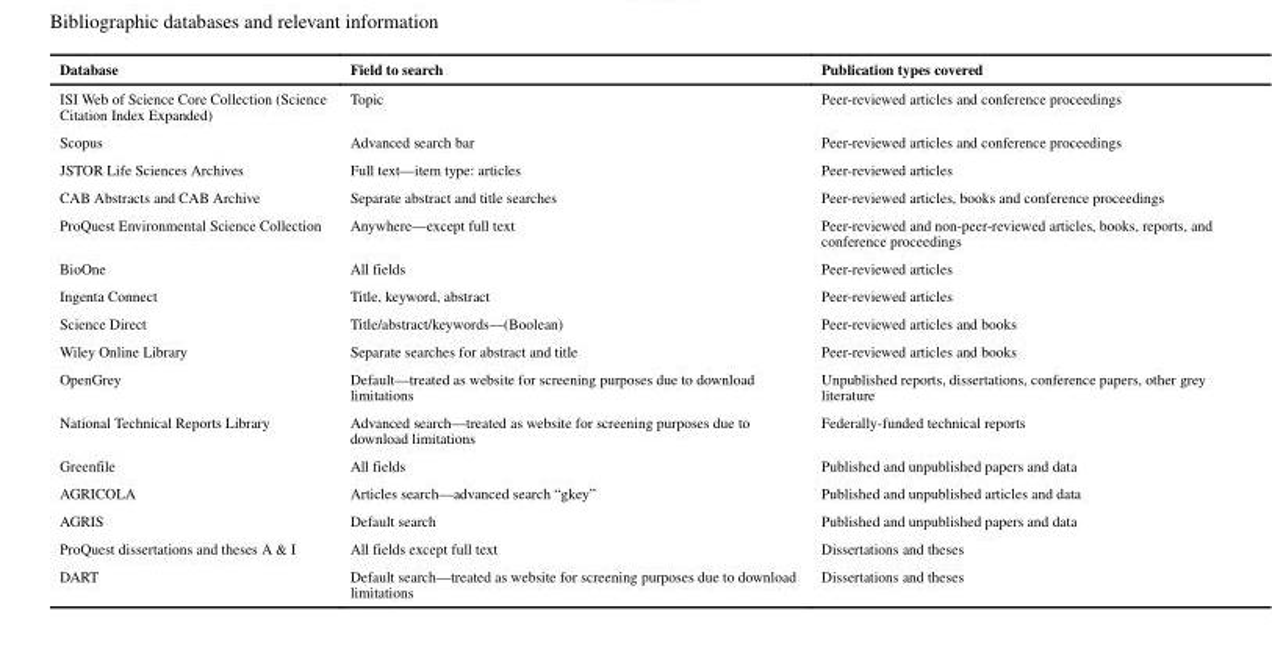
<table><thead><tr><td>Database</td><td>Field to search</td><td>Publication types covered</td></tr></thead><tbody><tr><td>ISI Web of Science Core Collection (Science Citation Index Expanded)</td><td>Topic</td><td>Peer-reviewed articles and conference proceedings</td></tr><tr><td>Scopus</td><td>Advanced search bar</td><td>Peer-reviewed articles and conference proceedings</td></tr><tr><td>JSTOR Life Sciences Archives</td><td>Full text—item type: articles</td><td>Peer-reviewed articles</td></tr><tr><td>CAB Abstracts and CAB Archive</td><td>Separate abstract and title searches</td><td>Peer-reviewed articles, books and conference proceedings</td></tr><tr><td>ProQuest Environmental Science Collection</td><td>Anywhere—except full text</td><td>Peer-reviewed and non-peer-reviewed articles, books, reports, and conference proceedings</td></tr><tr><td>BioOne</td><td>All fields</td><td>Peer-reviewed articles</td></tr><tr><td>Ingenta Connect</td><td>Title, keyword, abstract</td><td>Peer-reviewed articles</td></tr><tr><td>Science Direct</td><td>Title/abstract/keywords—(Boolean)</td><td>Peer-reviewed articles and books</td></tr><tr><td>Wiley Online Library</td><td>Separate searches for abstract and title</td><td>Peer-reviewed articles and books</td></tr><tr><td>OpenGrey</td><td>Default—treated as website for screening purposes due to download limitations</td><td>Unpublished reports, dissertations, conference papers, other grey literature</td></tr><tr><td>National Technical Reports Library</td><td>Advanced search—treated as website for screening purposes due to download limitations</td><td>Federally-funded technical reports</td></tr><tr><td>Greenfile</td><td>All fields</td><td>Published and unpublished papers and data</td></tr><tr><td>AGRICOLA</td><td>Articles search—advanced search “gkey”</td><td>Published and unpublished articles and data</td></tr><tr><td>AGRIS</td><td>Default search</td><td>Published and unpublished papers and data</td></tr><tr><td>ProQuest dissertations and theses A &amp; I</td><td>All fields except full text</td><td>Dissertations and theses</td></tr><tr><td>DART</td><td>Default search—treated as website for screening purposes due to download limitations</td><td>Dissertations and theses</td></tr></tbody></table>